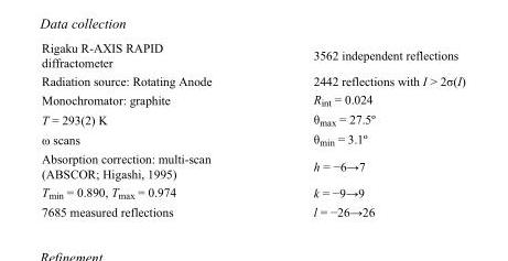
<table><tbody><tr><td>Rigaku R-AXIS RAPID diffractometer</td><td>3562 independent reflections</td></tr><tr><td>Radiation source: Rotating Anode</td><td>2442 reflections with I &gt; 2σ(I)</td></tr><tr><td>Monochromator: graphite</td><td>R<sub>int</sub> = 0.024</td></tr><tr><td>T = 293(2) K</td><td>θ<sub>max</sub> = 27.5º</td></tr><tr><td>ω scans</td><td>θ<sub>min</sub> = 3.1º</td></tr><tr><td>Absorption correction: multi-scan (ABSCOR; Higashi, 1995)</td><td>h = −6→7</td></tr><tr><td>T<sub>min</sub> = 0.890, T<sub>max</sub> = 0.974</td><td>k = −9→9</td></tr><tr><td>7685 measured reflections</td><td>l = −26→26</td></tr></tbody></table>